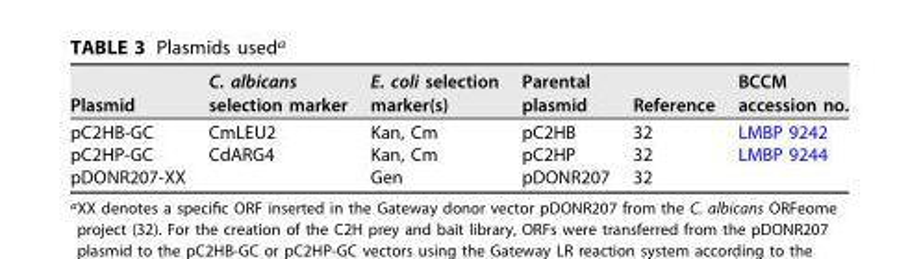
<table><thead><tr><td>Plasmid</td><td>C. albicans selection marker</td><td>E. coli selection marker(s)</td><td>Parental plasmid</td><td>Reference</td><td>BCCM accession no.</td></tr></thead><tbody><tr><td>pC2HB-GC</td><td>CmLEU2</td><td>Kan, Cm</td><td>pC2HB</td><td>32</td><td>LMBP 9242</td></tr><tr><td>pC2HP-GC</td><td>CdARG4</td><td>Kan, Cm</td><td>pC2HP</td><td>32</td><td>LMBP 9244</td></tr><tr><td>pDONR207-XX</td><td></td><td>Gen</td><td>pDONR207</td><td>32</td><td></td></tr></tbody></table>